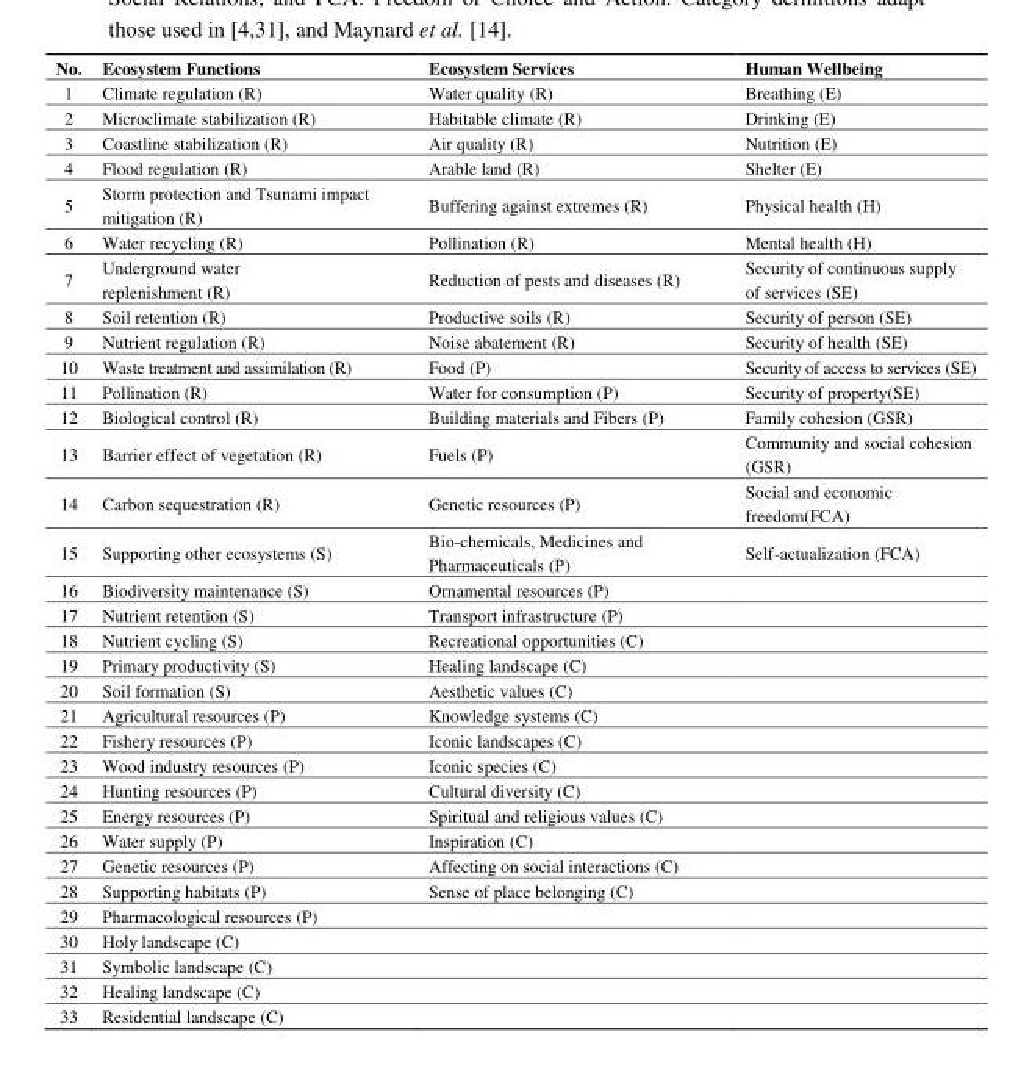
<table><thead><tr><td>No.</td><td>Ecosystem Functions</td><td>Ecosystem Services</td><td>Human Wellbeing</td></tr></thead><tbody><tr><td>1</td><td>Climate regulation (R)</td><td>Water quality (R)</td><td>Breathing (E)</td></tr><tr><td>2</td><td>Microclimate stabilization (R)</td><td>Habitable climate (R)</td><td>Drinking (E)</td></tr><tr><td>3</td><td>Coastline stabilization (R)</td><td>Air quality (R)</td><td>Nutrition (E)</td></tr><tr><td>4</td><td>Flood regulation (R)</td><td>Arable land (R)</td><td>Shelter (E)</td></tr><tr><td>5</td><td>Storm protection and Tsunami impact mitigation (R)</td><td>Buffering against extremes (R)</td><td>Physical health (H)</td></tr><tr><td>6</td><td>Water recycling (R)</td><td>Pollination (R)</td><td>Mental health (H)</td></tr><tr><td>7</td><td>Underground water replenishment (R)</td><td>Reduction of pests and diseases (R)</td><td>Security of continuous supply of services (SE)</td></tr><tr><td>8</td><td>Soil retention (R)</td><td>Productive soils (R)</td><td>Security of person (SE)</td></tr><tr><td>9</td><td>Nutrient regulation (R)</td><td>Noise abatement (R)</td><td>Security of health (SE)</td></tr><tr><td>10</td><td>Waste treatment and assimilation (R)</td><td>Food (P)</td><td>Security of access to services (SE)</td></tr><tr><td>11</td><td>Pollination (R)</td><td>Water for consumption (P)</td><td>Security of property(SE)</td></tr><tr><td>12</td><td>Biological control (R)</td><td>Building materials and Fibers (P)</td><td>Family cohesion (GSR)</td></tr><tr><td>13</td><td>Barrier effect of vegetation (R)</td><td>Fuels (P)</td><td>Community and social cohesion (GSR)</td></tr><tr><td>14</td><td>Carbon sequestration (R)</td><td>Genetic resources (P)</td><td>Social and economic freedom(FCA)</td></tr><tr><td>15</td><td>Supporting other ecosystems (S)</td><td>Bio-chemicals, Medicines and Pharmaceuticals (P)</td><td>Self-actualization (FCA)</td></tr><tr><td>16</td><td>Biodiversity maintenance (S)</td><td>Ornamental resources (P)</td><td></td></tr><tr><td>17</td><td>Nutrient retention (S)</td><td>Transport infrastructure (P)</td><td></td></tr><tr><td>18</td><td>Nutrient cycling (S)</td><td>Recreational opportunities (C)</td><td></td></tr><tr><td>19</td><td>Primary productivity (S)</td><td>Healing landscape (C)</td><td></td></tr><tr><td>20</td><td>Soil formation (S)</td><td>Aesthetic values (C)</td><td></td></tr><tr><td>21</td><td>Agricultural resources (P)</td><td>Knowledge systems (C)</td><td></td></tr><tr><td>22</td><td>Fishery resources (P)</td><td>Iconic landscapes (C)</td><td></td></tr><tr><td>23</td><td>Wood industry resources (P)</td><td>Iconic species (C)</td><td></td></tr><tr><td>24</td><td>Hunting resources (P)</td><td>Cultural diversity (C)</td><td></td></tr><tr><td>25</td><td>Energy resources (P)</td><td>Spiritual and religious values (C)</td><td></td></tr><tr><td>26</td><td>Water supply (P)</td><td>Inspiration (C)</td><td></td></tr><tr><td>27</td><td>Genetic resources (P)</td><td>Affecting on social interactions (C)</td><td></td></tr><tr><td>28</td><td>Supporting habitats (P)</td><td>Sense of place belonging (C)</td><td></td></tr><tr><td>29</td><td>Pharmacological resources (P)</td><td></td><td></td></tr><tr><td>30</td><td>Holy landscape (C)</td><td></td><td></td></tr><tr><td>31</td><td>Symbolic landscape (C)</td><td></td><td></td></tr><tr><td>32</td><td>Healing landscape (C)</td><td></td><td></td></tr><tr><td>33</td><td>Residential landscape (C)</td><td></td><td></td></tr></tbody></table>